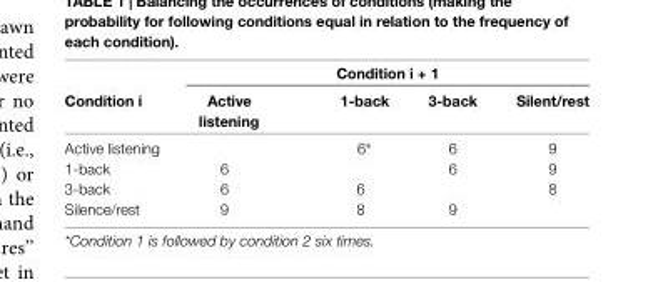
<table><thead><tr><td rowspan="2">Condition i</td><td colspan="4">Condition i + 1</td></tr><tr><td>Active listening</td><td>1-back</td><td>3-back</td><td>Silent/rest</td></tr></thead><tbody><tr><td>Active listening</td><td></td><td>6∗</td><td>6</td><td>9</td></tr><tr><td>1-back</td><td>6</td><td></td><td>6</td><td>9</td></tr><tr><td>3-back</td><td>6</td><td>6</td><td></td><td>8</td></tr><tr><td>Silence/rest</td><td>9</td><td>8</td><td>9</td><td></td></tr></tbody></table>